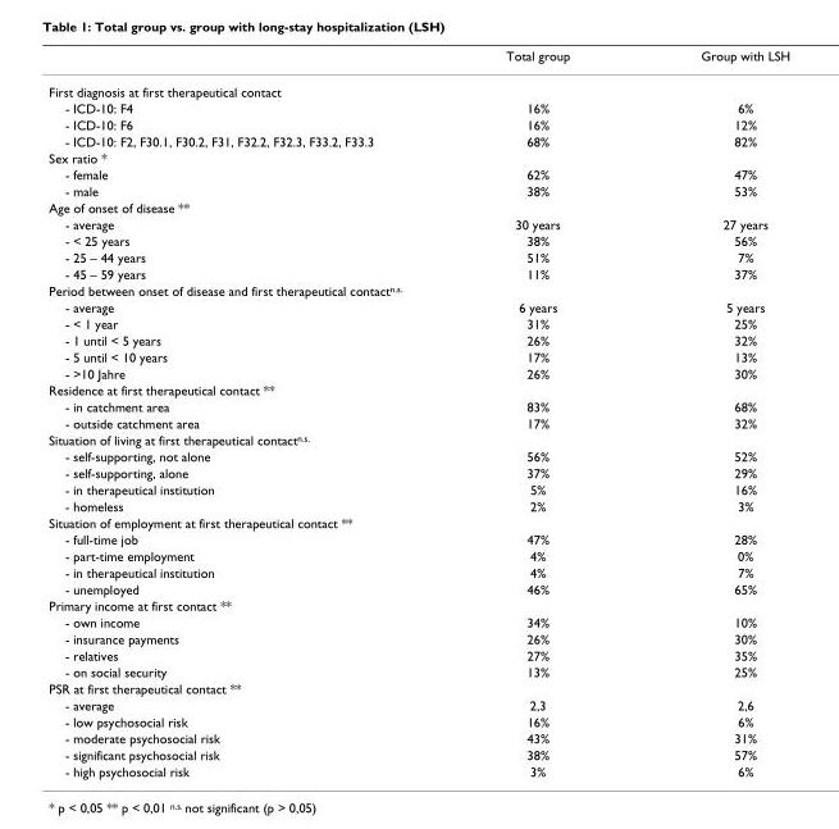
<table><thead><tr><td></td><td>Total group</td><td>Group with LSH</td></tr></thead><tbody><tr><td colspan="3">First diagnosis at first therapeutical contact</td></tr><tr><td>- ICD-10: F4</td><td>16%</td><td>6%</td></tr><tr><td>- ICD-10: F6</td><td>16%</td><td>12%</td></tr><tr><td>- ICD-10: F2, F30.1, F30.2, F31, F32.2, F32.3, F33.2, F33.3</td><td>68%</td><td>82%</td></tr><tr><td colspan="3">Sex ratio *</td></tr><tr><td>- female</td><td>62%</td><td>47%</td></tr><tr><td>- male</td><td>38%</td><td>53%</td></tr><tr><td colspan="3">Age of onset of disease **</td></tr><tr><td>- average</td><td>30 years</td><td>27 years</td></tr><tr><td>- &lt; 25 years</td><td>38%</td><td>56%</td></tr><tr><td>- 25 – 44 years</td><td>51%</td><td>7%</td></tr><tr><td>- 45 – 59 years</td><td>11%</td><td>37%</td></tr><tr><td colspan="3">Period between onset of disease and first therapeutical contact<sup>n.s.</sup></td></tr><tr><td>- average</td><td>6 years</td><td>5 years</td></tr><tr><td>- &lt; 1 year</td><td>31%</td><td>25%</td></tr><tr><td>- 1 until &lt; 5 years</td><td>26%</td><td>32%</td></tr><tr><td>- 5 until &lt; 10 years</td><td>17%</td><td>13%</td></tr><tr><td>- &gt;10 Jahre</td><td>26%</td><td>30%</td></tr><tr><td colspan="3">Residence at first therapeutical contact **</td></tr><tr><td>- in catchment area</td><td>83%</td><td>68%</td></tr><tr><td>- outside catchment area</td><td>17%</td><td>32%</td></tr><tr><td colspan="3">Situation of living at first therapeutical contact<sup>n.s.</sup></td></tr><tr><td>- self-supporting, not alone</td><td>56%</td><td>52%</td></tr><tr><td>- self-supporting, alone</td><td>37%</td><td>29%</td></tr><tr><td>- in therapeutical institution</td><td>5%</td><td>16%</td></tr><tr><td>- homeless</td><td>2%</td><td>3%</td></tr><tr><td colspan="3">Situation of employment at first therapeutical contact **</td></tr><tr><td>- full-time job</td><td>47%</td><td>28%</td></tr><tr><td>- part-time employment</td><td>4%</td><td>0%</td></tr><tr><td>- in therapeutical institution</td><td>4%</td><td>7%</td></tr><tr><td>- unemployed</td><td>46%</td><td>65%</td></tr><tr><td colspan="3">Primary income at first contact **</td></tr><tr><td>- own income</td><td>34%</td><td>10%</td></tr><tr><td>- insurance payments</td><td>26%</td><td>30%</td></tr><tr><td>- relatives</td><td>27%</td><td>35%</td></tr><tr><td>- on social security</td><td>13%</td><td>25%</td></tr><tr><td colspan="3">PSR at first therapeutical contact **</td></tr><tr><td>- average</td><td>2,3</td><td>2,6</td></tr><tr><td>- low psychosocial risk</td><td>16%</td><td>6%</td></tr><tr><td>- moderate psychosocial risk</td><td>43%</td><td>31%</td></tr><tr><td>- significant psychosocial risk</td><td>38%</td><td>57%</td></tr><tr><td>- high psychosocial risk</td><td>3%</td><td>6%</td></tr></tbody></table>